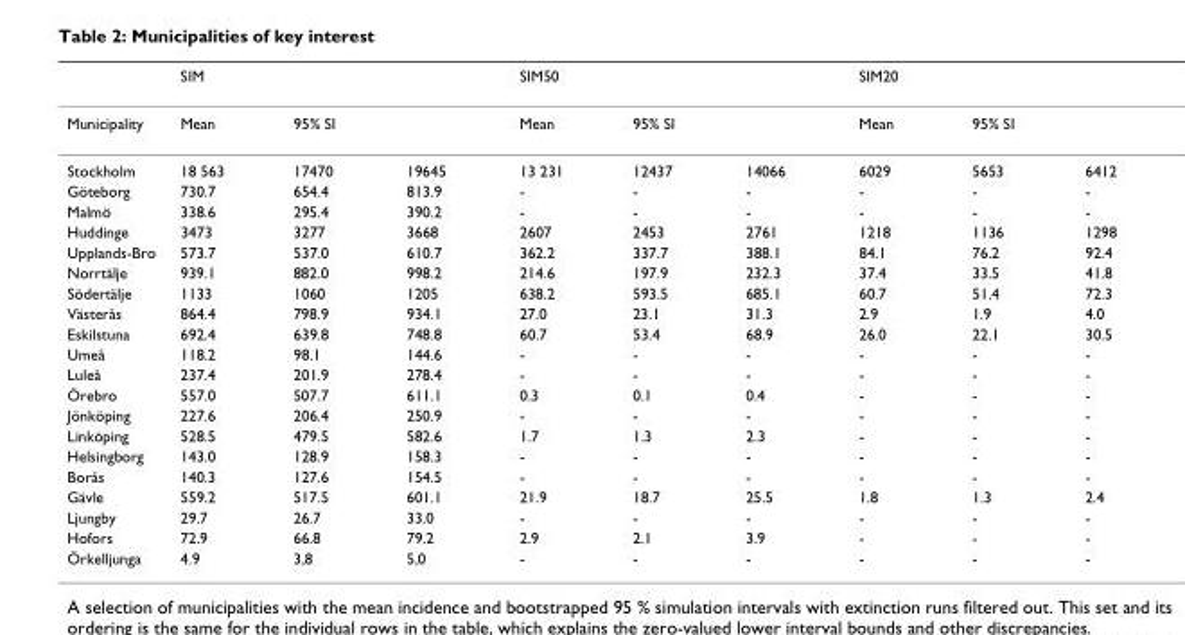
<table><thead><tr><td rowspan="3">Municipality Stockholm</td><td colspan="3">SIM</td><td colspan="3">SIM50</td><td colspan="3">SIM20</td></tr><tr><td rowspan="2">Mean 18 563</td><td colspan="2">95% SI</td><td rowspan="2">Mean 13 231</td><td colspan="2">95% SI</td><td rowspan="2">Mean 6029</td><td colspan="2">95% SI</td></tr><tr><td>17470</td><td>19645</td><td>12437</td><td>14066</td><td>5653</td><td>6412</td></tr></thead><tbody><tr><td>Göteborg</td><td>730.7</td><td>654.4</td><td>813.9</td><td>-</td><td>-</td><td>-</td><td>-</td><td>-</td><td>-</td></tr><tr><td>Malmö</td><td>338.6</td><td>295.4</td><td>390.2</td><td>-</td><td>-</td><td>-</td><td>-</td><td>-</td><td>-</td></tr><tr><td>Huddinge</td><td>3473</td><td>3277</td><td>3668</td><td>2607</td><td>2453</td><td>2761</td><td>1218</td><td>1136</td><td>1298</td></tr><tr><td>Upplands-Bro</td><td>573.7</td><td>537.0</td><td>610.7</td><td>362.2</td><td>337.7</td><td>388.1</td><td>84.1</td><td>76.2</td><td>92.4</td></tr><tr><td>Norrtälje</td><td>939.1</td><td>882.0</td><td>998.2</td><td>214.6</td><td>197.9</td><td>232.3</td><td>37.4</td><td>33.5</td><td>41.8</td></tr><tr><td>Södertälje</td><td>1133</td><td>1060</td><td>1205</td><td>638.2</td><td>593.5</td><td>685.1</td><td>60.7</td><td>51.4</td><td>72.3</td></tr><tr><td>Västerås</td><td>864.4</td><td>798.9</td><td>934.1</td><td>27.0</td><td>23.1</td><td>31.3</td><td>2.9</td><td>1.9</td><td>4.0</td></tr><tr><td>Eskilstuna</td><td>692.4</td><td>639.8</td><td>748.8</td><td>60.7</td><td>53.4</td><td>68.9</td><td>26.0</td><td>22.1</td><td>30.5</td></tr><tr><td>Umeå</td><td>118.2</td><td>98.1</td><td>144.6</td><td>-</td><td>-</td><td>-</td><td>-</td><td>-</td><td>-</td></tr><tr><td>Luleå</td><td>237.4</td><td>201.9</td><td>278.4</td><td>-</td><td>-</td><td>-</td><td>-</td><td>-</td><td>-</td></tr><tr><td>Örebro</td><td>557.0</td><td>507.7</td><td>611.1</td><td>0.3</td><td>0.1</td><td>0.4</td><td>-</td><td>-</td><td>-</td></tr><tr><td>Jönköping</td><td>227.6</td><td>206.4</td><td>250.9</td><td>-</td><td>-</td><td>-</td><td>-</td><td>-</td><td>-</td></tr><tr><td>Linköping</td><td>528.5</td><td>479.5</td><td>582.6</td><td>1.7</td><td>1.3</td><td>2.3</td><td>-</td><td>-</td><td>-</td></tr><tr><td>Helsingborg</td><td>143.0</td><td>128.9</td><td>158.3</td><td>-</td><td>-</td><td>-</td><td>-</td><td>-</td><td>-</td></tr><tr><td>Borås</td><td>140.3</td><td>127.6</td><td>154.5</td><td>-</td><td>-</td><td>-</td><td>-</td><td>-</td><td>-</td></tr><tr><td>Gävle</td><td>559.2</td><td>517.5</td><td>601.1</td><td>21.9</td><td>18.7</td><td>25.5</td><td>1.8</td><td>1.3</td><td>2.4</td></tr><tr><td>Ljungby</td><td>29.7</td><td>26.7</td><td>33.0</td><td>-</td><td>-</td><td>-</td><td>-</td><td>-</td><td>-</td></tr><tr><td>Hofors</td><td>72.9</td><td>66.8</td><td>79.2</td><td>2.9</td><td>2.1</td><td>3.9</td><td>-</td><td>-</td><td>-</td></tr><tr><td>Örkelljunga</td><td>4.9</td><td>3,8</td><td>5,0</td><td>-</td><td>-</td><td>-</td><td>-</td><td>-</td><td>-</td></tr></tbody></table>